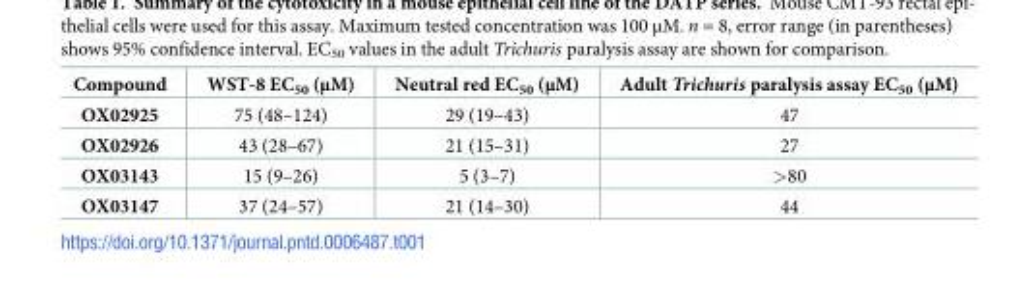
<table><thead><tr><td>Compound</td><td>WST-8 EC<sub>50</sub> (μM)</td><td>Neutral red EC<sub>50</sub> (μM)</td><td>Adult Trichuris paralysis assay EC<sub>50</sub> (μM)</td></tr></thead><tbody><tr><td>OX02925</td><td>75 (48–124)</td><td>29 (19–43)</td><td>47</td></tr><tr><td>OX02926</td><td>43 (28–67)</td><td>21 (15–31)</td><td>27</td></tr><tr><td>OX03143</td><td>15 (9–26)</td><td>5 (3–7)</td><td>&gt;80</td></tr><tr><td>OX03147</td><td>37 (24–57)</td><td>21 (14–30)</td><td>44</td></tr></tbody></table>